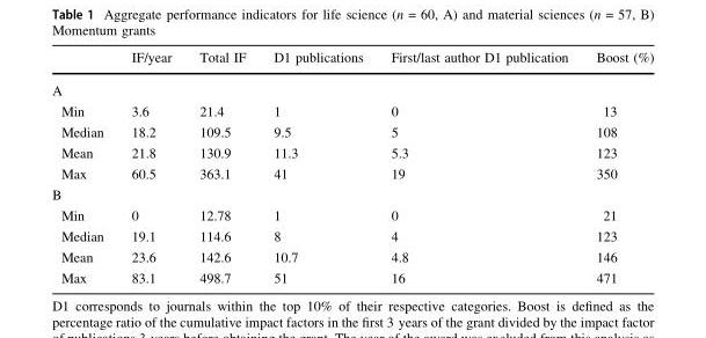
<table><thead><tr><td></td><td>IF/year</td><td>Total IF</td><td>D1 publications</td><td>First/last author D1 publication</td><td>Boost (%)</td></tr></thead><tbody><tr><td colspan="6">A</td></tr><tr><td>Min</td><td>3.6</td><td>21.4</td><td>1</td><td>0</td><td>13</td></tr><tr><td>Median</td><td>18.2</td><td>109.5</td><td>9.5</td><td>5</td><td>108</td></tr><tr><td>Mean</td><td>21.8</td><td>130.9</td><td>11.3</td><td>5.3</td><td>123</td></tr><tr><td>Max</td><td>60.5</td><td>363.1</td><td>41</td><td>19</td><td>350</td></tr><tr><td colspan="6">B</td></tr><tr><td>Min</td><td>0</td><td>12.78</td><td>1</td><td>0</td><td>21</td></tr><tr><td>Median</td><td>19.1</td><td>114.6</td><td>8</td><td>4</td><td>123</td></tr><tr><td>Mean</td><td>23.6</td><td>142.6</td><td>10.7</td><td>4.8</td><td>146</td></tr><tr><td>Max</td><td>83.1</td><td>498.7</td><td>51</td><td>16</td><td>471</td></tr></tbody></table>